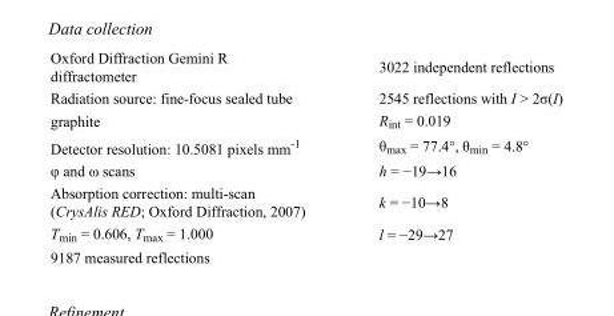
<table><tbody><tr><td>Oxford Diffraction Gemini R diffractometer</td><td>3022 independent reflections</td></tr><tr><td>Radiation source: fine-focus sealed tube</td><td>2545 reflections with I &gt; 2σ(I)</td></tr><tr><td>graphite</td><td>R<sub>int</sub> = 0.019</td></tr><tr><td>Detector resolution: 10.5081 pixels mm<sup>-1</sup></td><td>θ<sub>max</sub> = 77.4°, θ<sub>min</sub> = 4.8°</td></tr><tr><td>φ and ω scans</td><td>h = −19→16</td></tr><tr><td>Absorption correction: multi-scan (CrysAlis RED; Oxford Diffraction, 2007)</td><td>k = −10→8</td></tr><tr><td>T<sub>min</sub> = 0.606, T<sub>max</sub> = 1.000</td><td>l = −29→27</td></tr><tr><td>9187 measured reflections</td><td></td></tr></tbody></table>